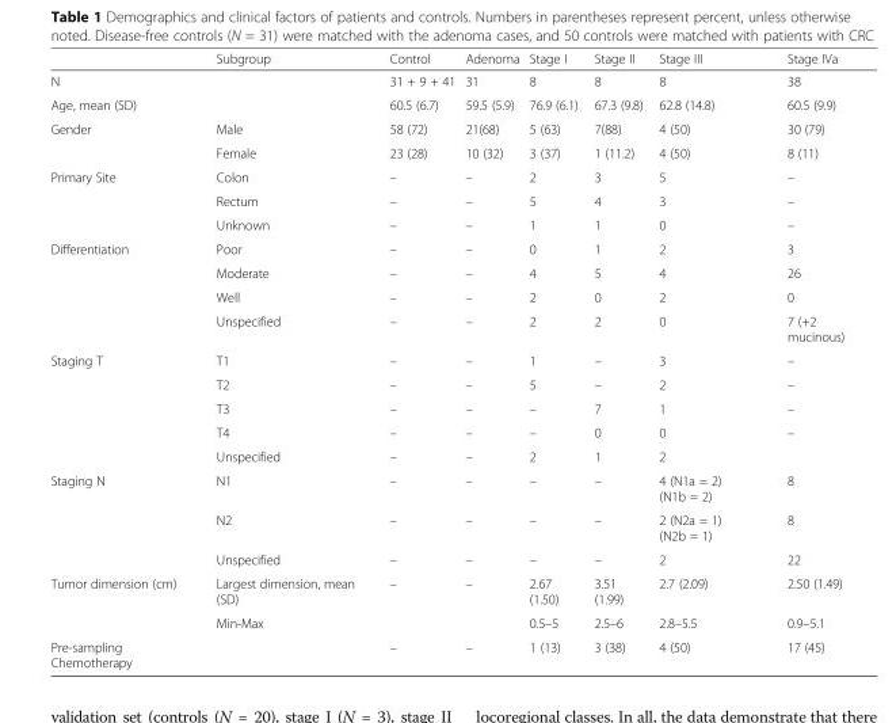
<table><thead><tr><td></td><td>Subgroup</td><td>Control</td><td>Adenoma</td><td>Stage I</td><td>Stage II</td><td>Stage III</td><td>Stage IVa</td></tr></thead><tbody><tr><td>N</td><td></td><td>31 + 9 + 41</td><td>31</td><td>8</td><td>8</td><td>8</td><td>38</td></tr><tr><td>Age, mean (SD)</td><td></td><td>60.5 (6.7)</td><td>59.5 (5.9)</td><td>76.9 (6.1)</td><td>67.3 (9.8)</td><td>62.8 (14.8)</td><td>60.5 (9.9)</td></tr><tr><td rowspan="2">Gender</td><td>Male</td><td>58 (72)</td><td>21(68)</td><td>5 (63)</td><td>7(88)</td><td>4 (50)</td><td>30 (79)</td></tr><tr><td>Female</td><td>23 (28)</td><td>10 (32)</td><td>3 (37)</td><td>1 (11.2)</td><td>4 (50)</td><td>8 (11)</td></tr><tr><td rowspan="3">Primary Site</td><td>Colon</td><td>–</td><td>–</td><td>2</td><td>3</td><td>5</td><td>–</td></tr><tr><td>Rectum</td><td>–</td><td>–</td><td>5</td><td>4</td><td>3</td><td>–</td></tr><tr><td>Unknown</td><td>–</td><td>–</td><td>1</td><td>1</td><td>0</td><td>–</td></tr><tr><td rowspan="4">Differentiation</td><td>Poor</td><td>–</td><td>–</td><td>0</td><td>1</td><td>2</td><td>3</td></tr><tr><td>Moderate</td><td>–</td><td>–</td><td>4</td><td>5</td><td>4</td><td>26</td></tr><tr><td>Well</td><td>–</td><td>–</td><td>2</td><td>0</td><td>2</td><td>0</td></tr><tr><td>Unspecified</td><td>–</td><td>–</td><td>2</td><td>2</td><td>0</td><td>7 (+2 mucinous)</td></tr><tr><td rowspan="5">Staging T</td><td>T1</td><td>–</td><td>–</td><td>1</td><td>–</td><td>3</td><td>–</td></tr><tr><td>T2</td><td>–</td><td>–</td><td>5</td><td>–</td><td>2</td><td>–</td></tr><tr><td>T3</td><td>–</td><td>–</td><td>–</td><td>7</td><td>1</td><td>–</td></tr><tr><td>T4</td><td>–</td><td>–</td><td>–</td><td>0</td><td>0</td><td>–</td></tr><tr><td>Unspecified</td><td>–</td><td>–</td><td>2</td><td>1</td><td>2</td><td></td></tr><tr><td rowspan="3">Staging N</td><td>N1</td><td>–</td><td>–</td><td>–</td><td>–</td><td>4 (N1a = 2) (N1b = 2)</td><td>8</td></tr><tr><td>N2</td><td>–</td><td>–</td><td>–</td><td>–</td><td>2 (N2a = 1) (N2b = 1)</td><td>8</td></tr><tr><td>Unspecified</td><td>–</td><td>–</td><td>–</td><td>–</td><td>2</td><td>22</td></tr><tr><td rowspan="2">Tumor dimension (cm)</td><td>Largest dimension, mean (SD)</td><td>–</td><td>–</td><td>2.67 (1.50)</td><td>3.51 (1.99)</td><td>2.7 (2.09)</td><td>2.50 (1.49)</td></tr><tr><td>Min-Max</td><td></td><td></td><td>0.5–5</td><td>2.5–6</td><td>2.8–5.5</td><td>0.9–5.1</td></tr><tr><td>Pre-sampling Chemotherapy</td><td></td><td>–</td><td>–</td><td>1 (13)</td><td>3 (38)</td><td>4 (50)</td><td>17 (45)</td></tr></tbody></table>